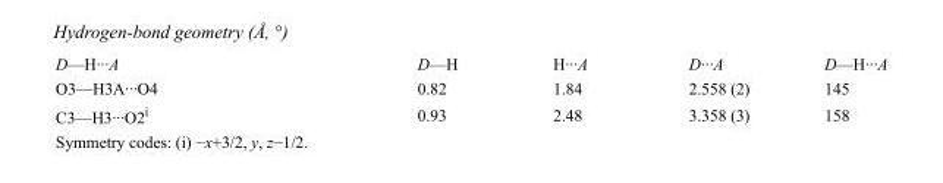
<table><tbody><tr><td>D—H···A</td><td>D—H</td><td>H···A</td><td>D···A</td><td>D—H···A</td></tr><tr><td>O3—H3A···O4</td><td>0.82</td><td>1.84</td><td>2.558 (2)</td><td>145</td></tr><tr><td>C3—H3···O2<sup>i</sup></td><td>0.93</td><td>2.48</td><td>3.358 (3)</td><td>158</td></tr></tbody></table>